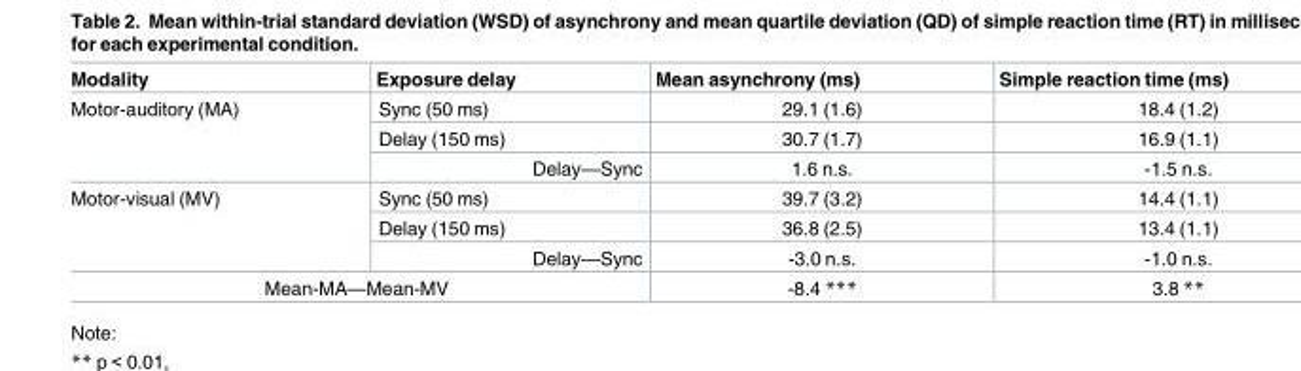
<table><thead><tr><td>Modality</td><td>Exposure delay</td><td>Mean asynchrony (ms)</td><td>Simple reaction time (ms)</td></tr></thead><tbody><tr><td rowspan="3">Motor-auditory (MA)</td><td>Sync (50 ms)</td><td>29.1 (1.6)</td><td>18.4 (1.2)</td></tr><tr><td>Delay (150 ms)</td><td>30.7 (1.7)</td><td>16.9 (1.1)</td></tr><tr><td>Delay—Sync</td><td>1.6 n.s.</td><td>-1.5 n.s.</td></tr><tr><td rowspan="3">Motor-visual (MV)</td><td>Sync (50 ms)</td><td>39.7 (3.2)</td><td>14.4 (1.1)</td></tr><tr><td>Delay (150 ms)</td><td>36.8 (2.5)</td><td>13.4 (1.1)</td></tr><tr><td>Delay—Sync</td><td>-3.0 n.s.</td><td>-1.0 n.s.</td></tr><tr><td colspan="2">Mean-MA—Mean-MV</td><td>-8.4 ***</td><td>3.8 **</td></tr></tbody></table>